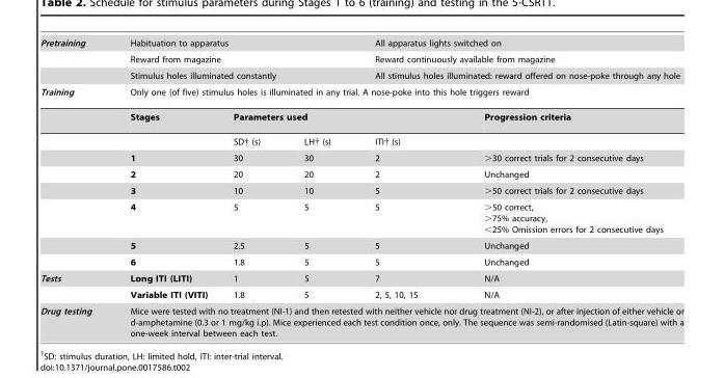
<table><tbody><tr><td rowspan="3">Pretraining</td><td colspan="3">Habituation to apparatus</td><td colspan="2">All apparatus lights switched on</td></tr><tr><td colspan="3">Reward from magazine</td><td colspan="2">Reward continuously available from magazine</td></tr><tr><td colspan="3">Stimulus holes illuminated constantly</td><td colspan="2">All stimulus holes illuminated: reward offered on nose-poke through any hole</td></tr><tr><td rowspan="9">Training</td><td colspan="5">Only one (of five) stimulus holes is illuminated in any trial. A nose-poke into this hole triggers reward</td></tr><tr><td>Stages</td><td colspan="3">Parameters used</td><td>Progression criteria</td></tr><tr><td></td><td>SD† (s)</td><td>LH† (s)</td><td>ITI† (s)</td><td></td></tr><tr><td>1</td><td>30</td><td>30</td><td>2</td><td>&gt;30 correct trials for 2 consecutive days</td></tr><tr><td>2</td><td>20</td><td>20</td><td>2</td><td>Unchanged</td></tr><tr><td>3</td><td>10</td><td>10</td><td>5</td><td>&gt;50 correct trials for 2 consecutive days</td></tr><tr><td>4</td><td>5</td><td>5</td><td>5</td><td>&gt;50 correct, &gt;75% accuracy, &lt;25% Omission errors for 2 consecutive days</td></tr><tr><td>5</td><td>2.5</td><td>5</td><td>5</td><td>Unchanged</td></tr><tr><td>6</td><td>1.8</td><td>5</td><td>5</td><td>Unchanged</td></tr><tr><td rowspan="2">Tests</td><td>Long ITI (LITI)</td><td>1</td><td>5</td><td>7</td><td>N/A</td></tr><tr><td>Variable ITI (VITI)</td><td>1.8</td><td>5</td><td>2, 5, 10, 15</td><td>N/A</td></tr><tr><td>Drug testing</td><td colspan="5">Mice were tested with no treatment (NI-1) and then retested with neither vehicle nor drug treatment (NI-2), or after injection of either vehicle or d-amphetamine (0.3 or 1 mg/kg i.p). Mice experienced each test condition once, only. The sequence was semi-randomised (Latin-square) with a one-week interval between each test.</td></tr></tbody></table>